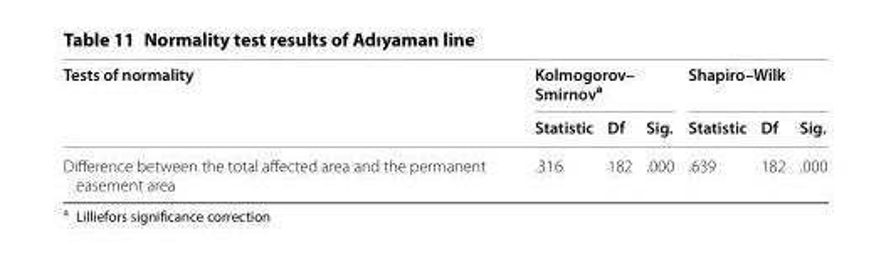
<table><thead><tr><td rowspan="2">Tests of normality</td><td colspan="3">Kolmogorov– Smirnov<sup>a</sup></td><td colspan="3">Shapiro–Wilk</td></tr><tr><td>Statistic</td><td>Df</td><td>Sig.</td><td>Statistic</td><td>Df</td><td>Sig.</td></tr></thead><tbody><tr><td>Difference between the total affected area and the permanent easement area</td><td>.316</td><td>182</td><td>.000</td><td>.639</td><td>182</td><td>.000</td></tr></tbody></table>